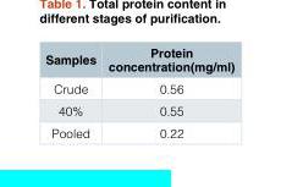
<table><thead><tr><td>Samples</td><td>Protein concentration(mg/ml)</td></tr></thead><tbody><tr><td>Crude</td><td>0.56</td></tr><tr><td>40%</td><td>0.55</td></tr><tr><td>Pooled</td><td>0.22</td></tr></tbody></table>